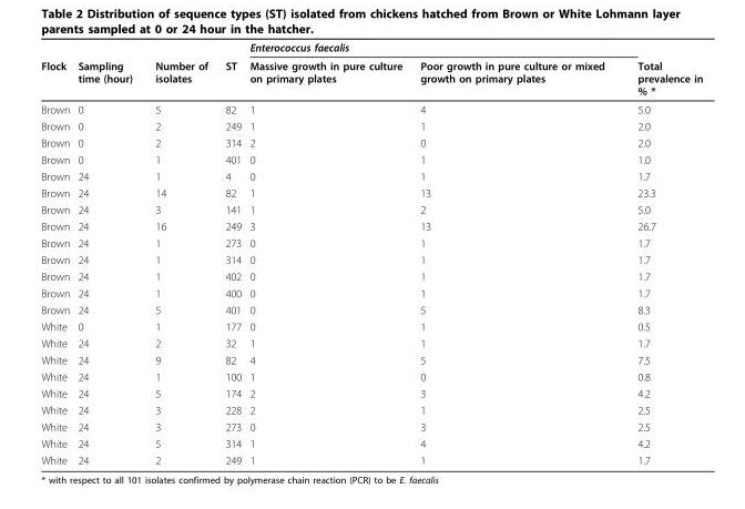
<table><thead><tr><td rowspan="2">Flock</td><td rowspan="2">Sampling time (hour)</td><td rowspan="2">Number of isolates</td><td rowspan="2">ST</td><td colspan="2">Enterococcus faecalis</td><td rowspan="2">Total prevalence in % *</td></tr><tr><td>Massive growth in pure culture on primary plates</td><td>Poor growth in pure culture or mixed growth on primary plates</td></tr></thead><tbody><tr><td>Brown</td><td>0</td><td>5</td><td>82</td><td>1</td><td>4</td><td>5.0</td></tr><tr><td>Brown</td><td>0</td><td>2</td><td>249</td><td>1</td><td>1</td><td>2.0</td></tr><tr><td>Brown</td><td>0</td><td>2</td><td>314</td><td>2</td><td>0</td><td>2.0</td></tr><tr><td>Brown</td><td>0</td><td>1</td><td>401</td><td>0</td><td>1</td><td>1.0</td></tr><tr><td>Brown</td><td>24</td><td>1</td><td>4</td><td>0</td><td>1</td><td>1.7</td></tr><tr><td>Brown</td><td>24</td><td>14</td><td>82</td><td>1</td><td>13</td><td>23.3</td></tr><tr><td>Brown</td><td>24</td><td>3</td><td>141</td><td>1</td><td>2</td><td>5.0</td></tr><tr><td>Brown</td><td>24</td><td>16</td><td>249</td><td>3</td><td>13</td><td>26.7</td></tr><tr><td>Brown</td><td>24</td><td>1</td><td>273</td><td>0</td><td>1</td><td>1.7</td></tr><tr><td>Brown</td><td>24</td><td>1</td><td>314</td><td>0</td><td>1</td><td>1.7</td></tr><tr><td>Brown</td><td>24</td><td>1</td><td>402</td><td>0</td><td>1</td><td>1.7</td></tr><tr><td>Brown</td><td>24</td><td>1</td><td>400</td><td>0</td><td>1</td><td>1.7</td></tr><tr><td>Brown</td><td>24</td><td>5</td><td>401</td><td>0</td><td>5</td><td>8.3</td></tr><tr><td>White</td><td>0</td><td>1</td><td>177</td><td>0</td><td>1</td><td>0.5</td></tr><tr><td>White</td><td>24</td><td>2</td><td>32</td><td>1</td><td>1</td><td>1.7</td></tr><tr><td>White</td><td>24</td><td>9</td><td>82</td><td>4</td><td>5</td><td>7.5</td></tr><tr><td>White</td><td>24</td><td>1</td><td>100</td><td>1</td><td>0</td><td>0.8</td></tr><tr><td>White</td><td>24</td><td>5</td><td>174</td><td>2</td><td>3</td><td>4.2</td></tr><tr><td>White</td><td>24</td><td>3</td><td>228</td><td>2</td><td>1</td><td>2.5</td></tr><tr><td>White</td><td>24</td><td>3</td><td>273</td><td>0</td><td>3</td><td>2.5</td></tr><tr><td>White</td><td>24</td><td>5</td><td>314</td><td>1</td><td>4</td><td>4.2</td></tr><tr><td>White</td><td>24</td><td>2</td><td>249</td><td>1</td><td>1</td><td>1.7</td></tr></tbody></table>